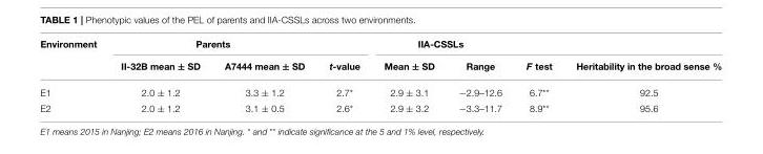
<table><thead><tr><td rowspan="2">Environment</td><td colspan="3">Parents</td><td colspan="3">IIA-CSSLs</td><td rowspan="2">Heritability in the broad sense %</td></tr><tr><td>II-32B mean ± SD</td><td>A7444 mean ± SD</td><td>t-value</td><td>Mean ± SD</td><td>Range</td><td>F test</td></tr></thead><tbody><tr><td>E1</td><td>2.0 ± 1.2</td><td>3.3 ± 1.2</td><td>2.7*</td><td>2.9 ± 3.1</td><td>−2.9–12.6</td><td>6.7**</td><td>92.5</td></tr><tr><td>E2</td><td>2.0 ± 1.2</td><td>3.1 ± 0.5</td><td>2.6*</td><td>2.9 ± 3.2</td><td>−3.3–11.7</td><td>8.9**</td><td>95.6</td></tr></tbody></table>